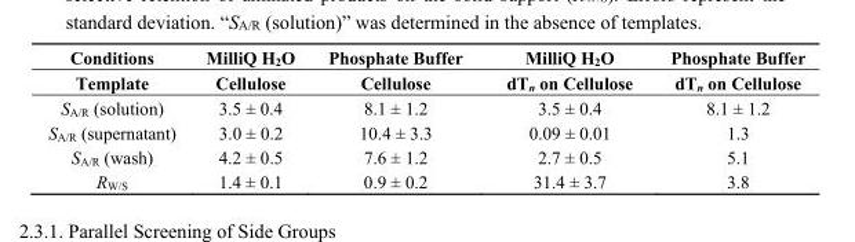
<table><thead><tr><td>Conditions</td><td>MilliQ H<sub>2</sub>O</td><td>Phosphate Buffer</td><td>MilliQ H<sub>2</sub>O</td><td>Phosphate Buffer</td></tr></thead><tbody><tr><td>Template</td><td>Cellulose</td><td>Cellulose</td><td>dT<sub>n</sub> on Cellulose</td><td>dT<sub>n</sub> on Cellulose</td></tr><tr><td>S<sub>A/R</sub> (solution)</td><td>3.5 ± 0.4</td><td>8.1 ± 1.2</td><td>3.5 ± 0.4</td><td>8.1 ± 1.2</td></tr><tr><td>S<sub>A/R</sub> (supernatant)</td><td>3.0 ± 0.2</td><td>10.4 ± 3.3</td><td>0.09 ± 0.01</td><td>1.3</td></tr><tr><td>S<sub>A/R</sub> (wash)</td><td>4.2 ± 0.5</td><td>7.6 ± 1.2</td><td>2.7 ± 0.5</td><td>5.1</td></tr><tr><td>R<sub>W/S</sub></td><td>1.4 ± 0.1</td><td>0.9 ± 0.2</td><td>31.4 ± 3.7</td><td>3.8</td></tr></tbody></table>